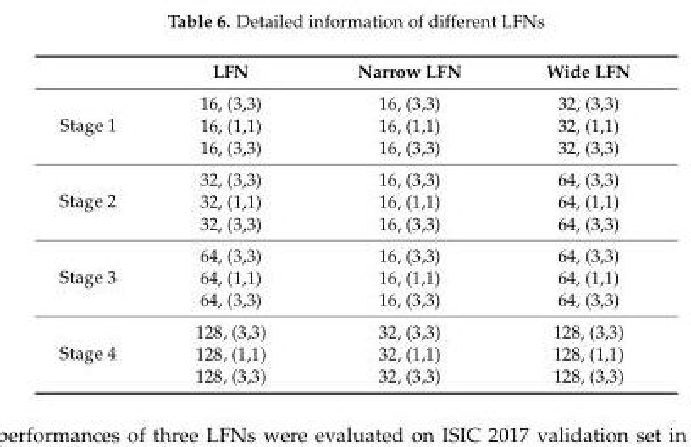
<table><thead><tr><td></td><td>LFN</td><td>Narrow LFN</td><td>Wide LFN</td></tr></thead><tbody><tr><td rowspan="3">Stage 1</td><td>16, (3,3)</td><td>16, (3,3)</td><td>32, (3,3)</td></tr><tr><td>16, (1,1)</td><td>16, (1,1)</td><td>32, (1,1)</td></tr><tr><td>16, (3,3)</td><td>16, (3,3)</td><td>32, (3,3)</td></tr><tr><td rowspan="3">Stage 2</td><td>32, (3,3)</td><td>16, (3,3)</td><td>64, (3,3)</td></tr><tr><td>32, (1,1)</td><td>16, (1,1)</td><td>64, (1,1)</td></tr><tr><td>32, (3,3)</td><td>16, (3,3)</td><td>64, (3,3)</td></tr><tr><td rowspan="3">Stage 3</td><td>64, (3,3)</td><td>16, (3,3)</td><td>64, (3,3)</td></tr><tr><td>64, (1,1)</td><td>16, (1,1)</td><td>64, (1,1)</td></tr><tr><td>64, (3,3)</td><td>16, (3,3)</td><td>64, (3,3)</td></tr><tr><td rowspan="3">Stage 4</td><td>128, (3,3)</td><td>32, (3,3)</td><td>128, (3,3)</td></tr><tr><td>128, (1,1)</td><td>32, (1,1)</td><td>128, (1,1)</td></tr><tr><td>128, (3,3)</td><td>32, (3,3)</td><td>128, (3,3)</td></tr></tbody></table>